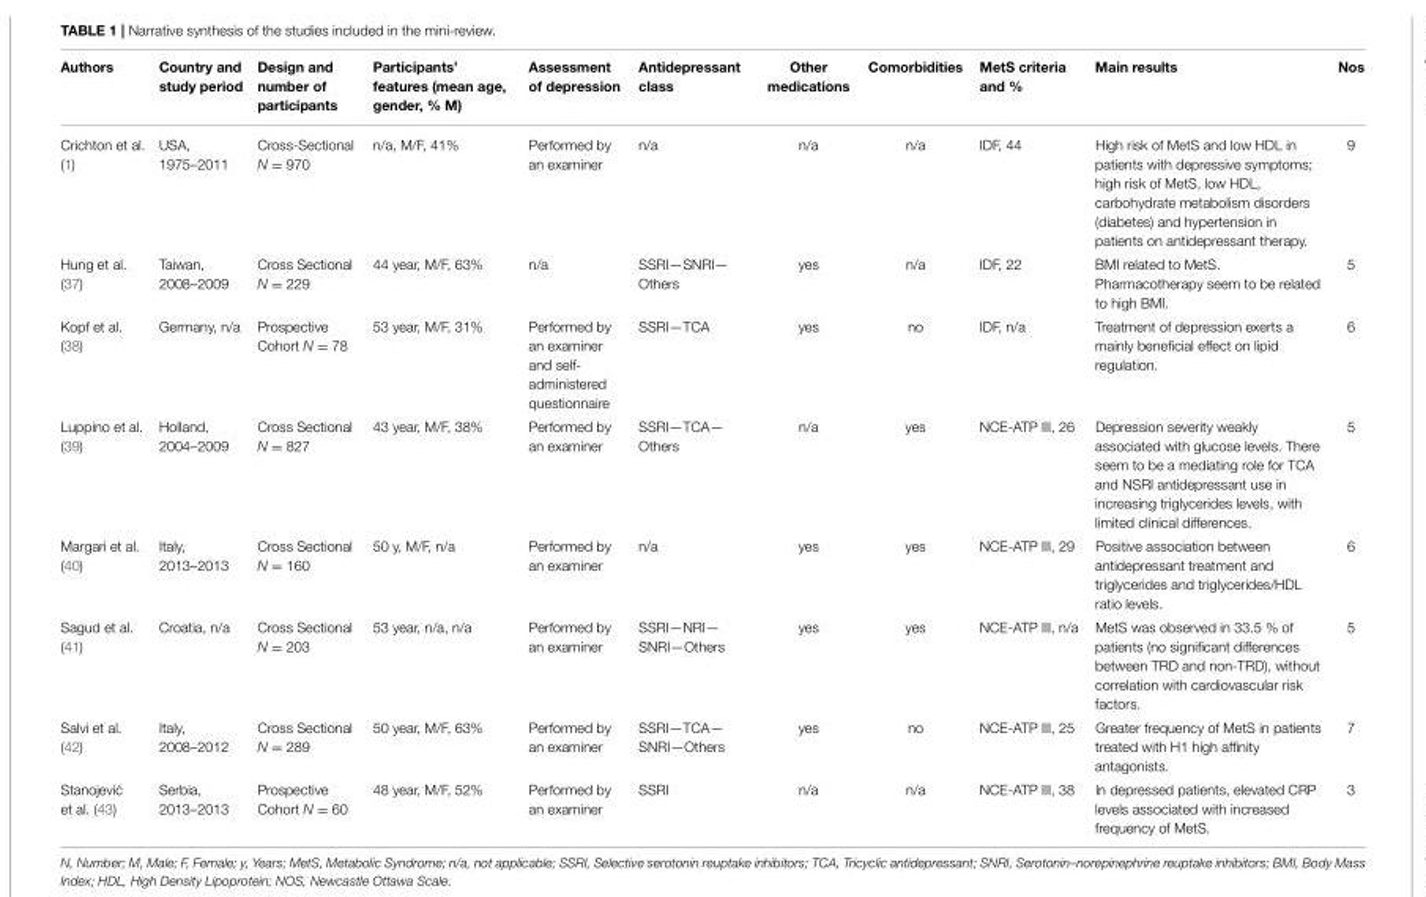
<table><thead><tr><td>Authors</td><td>Country and study period</td><td>Design and number of participants</td><td>Participants’ features (mean age, gender, % M)</td><td>Assessment of depression</td><td>Antidepressant class</td><td>Other medications</td><td>Comorbidities</td><td>MetS criteria and %</td><td>Main results</td><td>Nos</td></tr></thead><tbody><tr><td>Crichton et al. (1)</td><td>USA, 1975–2011</td><td>Cross-Sectional N = 970</td><td>n/a, M/F, 41%</td><td>Performed by an examiner</td><td>n/a</td><td>n/a</td><td>n/a</td><td>IDF, 44</td><td>High risk of MetS and low HDL in patients with depressive symptoms; high risk of MetS, low HDL, carbohydrate metabolism disorders (diabetes) and hypertension in patients on antidepressant therapy.</td><td>9</td></tr><tr><td>Hung et al. (37)</td><td>Taiwan, 2008–2009</td><td>Cross Sectional N = 229</td><td>44 year, M/F, 63%</td><td>n/a</td><td>SSRI—SNRI— Others</td><td>yes</td><td>n/a</td><td>IDF, 22</td><td>BMI related to MetS. Pharmacotherapy seem to be related to high BMI.</td><td>5</td></tr><tr><td>Kopf et al. (38)</td><td>Germany, n/a</td><td>Prospective Cohort N = 78</td><td>53 year, M/F, 31%</td><td>Performed by an examiner and self- administered questionnaire</td><td>SSRI—TCA</td><td>yes</td><td>no</td><td>IDF, n/a</td><td>Treatment of depression exerts a mainly beneficial effect on lipid regulation.</td><td>6</td></tr><tr><td>Luppino et al. (39)</td><td>Holland, 2004–2009</td><td>Cross Sectional N = 827</td><td>43 year, M/F, 38%</td><td>Performed by an examiner</td><td>SSRI—TCA— Others</td><td>n/a</td><td>yes</td><td>NCE-ATP III, 26</td><td>Depression severity weakly associated with glucose levels. There seem to be a mediating role for TCA and NSRI antidepressant use in increasing triglycerides levels, with limited clinical differences.</td><td>5</td></tr><tr><td>Margari et al. (40)</td><td>Italy, 2013–2013</td><td>Cross Sectional N = 160</td><td>50 y, M/F, n/a</td><td>Performed by an examiner</td><td>n/a</td><td>yes</td><td>yes</td><td>NCE-ATP III, 29</td><td>Positive association between antidepressant treatment and triglycerides and triglycerides/HDL ratio levels.</td><td>6</td></tr><tr><td>Sagud et al. (41)</td><td>Croatia, n/a</td><td>Cross Sectional N = 203</td><td>53 year, n/a, n/a</td><td>Performed by an examiner</td><td>SSRI—NRI— SNRI—Others</td><td>yes</td><td>yes</td><td>NCE-ATP III, n/a</td><td>MetS was observed in 33.5 % of patients (no significant differences between TRD and non-TRD), without correlation with cardiovascular risk factors.</td><td>5</td></tr><tr><td>Salvi et al. (42)</td><td>Italy, 2008–2012</td><td>Cross Sectional N = 289</td><td>50 year, M/F, 63%</td><td>Performed by an examiner</td><td>SSRI—TCA— SNRI—Others</td><td>yes</td><td>no</td><td>NCE-ATP III, 25</td><td>Greater frequency of MetS in patients treated with H1 high affinity antagonists.</td><td>7</td></tr><tr><td>Stanojevi ´c et al. (43)</td><td>Serbia, 2013–2013</td><td>Prospective Cohort N = 60</td><td>48 year, M/F, 52%</td><td>Performed by an examiner</td><td>SSRI</td><td>n/a</td><td>n/a</td><td>NCE-ATP III, 38</td><td>In depressed patients, elevated CRP levels associated with increased frequency of MetS.</td><td>3</td></tr></tbody></table>